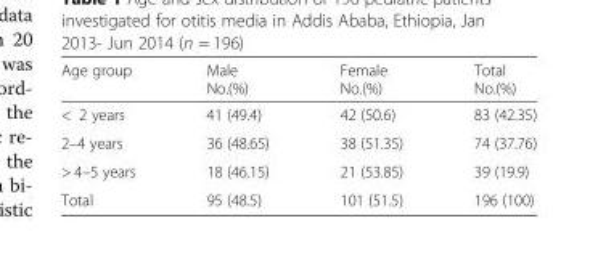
<table><thead><tr><td>Age group</td><td>Male No.(%)</td><td>Female No.(%)</td><td>Total No.(%)</td></tr></thead><tbody><tr><td>&lt; 2 years</td><td>41 (49.4)</td><td>42 (50.6)</td><td>83 (42.35)</td></tr><tr><td>2–4 years</td><td>36 (48.65)</td><td>38 (51.35)</td><td>74 (37.76)</td></tr><tr><td>&gt; 4–5 years</td><td>18 (46.15)</td><td>21 (53.85)</td><td>39 (19.9)</td></tr><tr><td>Total</td><td>95 (48.5)</td><td>101 (51.5)</td><td>196 (100)</td></tr></tbody></table>